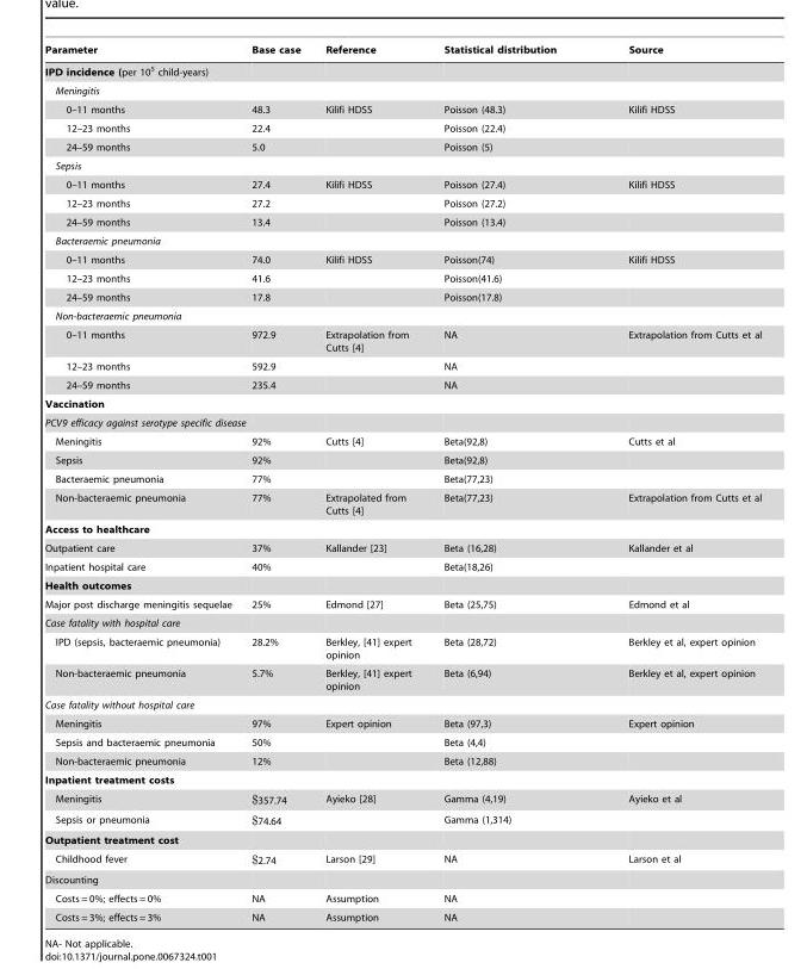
<table><thead><tr><td>Parameter</td><td>Base case</td><td>Reference</td><td>Statistical distribution</td><td>Source</td></tr></thead><tbody><tr><td colspan="5">IPD incidence (per 10<sup>5</sup> child-years)</td></tr><tr><td colspan="5">Meningitis</td></tr><tr><td>0–11 months</td><td>48.3</td><td>Kilifi HDSS</td><td>Poisson (48.3)</td><td>Kilifi HDSS</td></tr><tr><td>12–23 months</td><td>22.4</td><td></td><td>Poisson (22.4)</td><td></td></tr><tr><td>24–59 months</td><td>5.0</td><td></td><td>Poisson (5)</td><td></td></tr><tr><td colspan="5">Sepsis</td></tr><tr><td>0–11 months</td><td>27.4</td><td>Kilifi HDSS</td><td>Poisson (27.4)</td><td>Kilifi HDSS</td></tr><tr><td>12–23 months</td><td>27.2</td><td></td><td>Poisson (27.2)</td><td></td></tr><tr><td>24–59 months</td><td>13.4</td><td></td><td>Poisson (13.4)</td><td></td></tr><tr><td colspan="5">Bacteraemic pneumonia</td></tr><tr><td>0–11 months</td><td>74.0</td><td>Kilifi HDSS</td><td>Poisson(74)</td><td>Kilifi HDSS</td></tr><tr><td>12–23 months</td><td>41.6</td><td></td><td>Poisson(41.6)</td><td></td></tr><tr><td>24–59 months</td><td>17.8</td><td></td><td>Poisson(17.8)</td><td></td></tr><tr><td colspan="5">Non-bacteraemic pneumonia</td></tr><tr><td>0–11 months</td><td>972.9</td><td>Extrapolation from Cutts [4]</td><td>NA</td><td>Extrapolation from Cutts et al</td></tr><tr><td>12–23 months</td><td>592.9</td><td></td><td>NA</td><td></td></tr><tr><td>24–59 months</td><td>235.4</td><td></td><td>NA</td><td></td></tr><tr><td colspan="5">Vaccination</td></tr><tr><td colspan="5">PCV9 efficacy against serotype specific disease</td></tr><tr><td>Meningitis</td><td>92%</td><td>Cutts [4]</td><td>Beta(92,8)</td><td>Cutts et al</td></tr><tr><td>Sepsis</td><td>92%</td><td></td><td>Beta(92,8)</td><td></td></tr><tr><td>Bacteraemic pneumonia</td><td>77%</td><td></td><td>Beta(77,23)</td><td></td></tr><tr><td>Non-bacteraemic pneumonia</td><td>77%</td><td>Extrapolated from Cutts [4]</td><td>Beta(77,23)</td><td>Extrapolation from Cutts et al</td></tr><tr><td colspan="5">Access to healthcare</td></tr><tr><td>Outpatient care</td><td>37%</td><td>Kallander [23]</td><td>Beta (16,28)</td><td>Kallander et al</td></tr><tr><td>Inpatient hospital care</td><td>40%</td><td></td><td>Beta(18,26)</td><td></td></tr><tr><td colspan="5">Health outcomes</td></tr><tr><td>Major post discharge meningitis sequelae</td><td>25%</td><td>Edmond [27]</td><td>Beta (25,75)</td><td>Edmond et al</td></tr><tr><td colspan="5">Case fatality with hospital care</td></tr><tr><td>IPD (sepsis, bacteraemic pneumonia)</td><td>28.2%</td><td>Berkley, [41] expert opinion</td><td>Beta (28,72)</td><td>Berkley et al, expert opinion</td></tr><tr><td>Non-bacteraemic pneumonia</td><td>5.7%</td><td>Berkley, [41] expert opinion</td><td>Beta (6,94)</td><td>Berkley et al, expert opinion</td></tr><tr><td colspan="5">Case fatality without hospital care</td></tr><tr><td>Meningitis</td><td>97%</td><td>Expert opinion</td><td>Beta (97,3)</td><td>Expert opinion</td></tr><tr><td>Sepsis and bacteraemic pneumonia</td><td>50%</td><td></td><td>Beta (4,4)</td><td></td></tr><tr><td>Non-bacteraemic pneumonia</td><td>12%</td><td></td><td>Beta (12,88)</td><td></td></tr><tr><td colspan="5">Inpatient treatment costs</td></tr><tr><td>Meningitis</td><td>$357.74</td><td>Ayieko [28]</td><td>Gamma (4,19)</td><td>Ayieko et al</td></tr><tr><td>Sepsis or pneumonia</td><td>$74.64</td><td></td><td>Gamma (1,314)</td><td></td></tr><tr><td colspan="5">Outpatient treatment cost</td></tr><tr><td>Childhood fever</td><td>$2.74</td><td>Larson [29]</td><td>NA</td><td>Larson et al</td></tr><tr><td colspan="5">Discounting</td></tr><tr><td>Costs = 0%; effects = 0%</td><td>NA</td><td>Assumption</td><td>NA</td><td></td></tr><tr><td>Costs = 3%; effects = 3%</td><td>NA</td><td>Assumption</td><td>NA</td><td></td></tr></tbody></table>